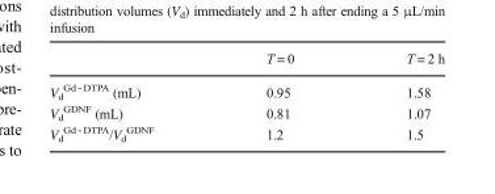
<table><thead><tr><td></td><td>T = 0</td><td>T = 2 h</td></tr></thead><tbody><tr><td>V<sub>d</sub> <sup>Gd ‐ DTPA</sup> (mL)</td><td>0.95</td><td>1.58</td></tr><tr><td>V<sub>d</sub> <sup>GDNF</sup> (mL)</td><td>0.81</td><td>1.07</td></tr><tr><td>V<sub>d</sub> <sup>Gd ‐ DTPA</sup>/V<sub>d</sub> <sup>GDNF</sup></td><td>1.2</td><td>1.5</td></tr></tbody></table>